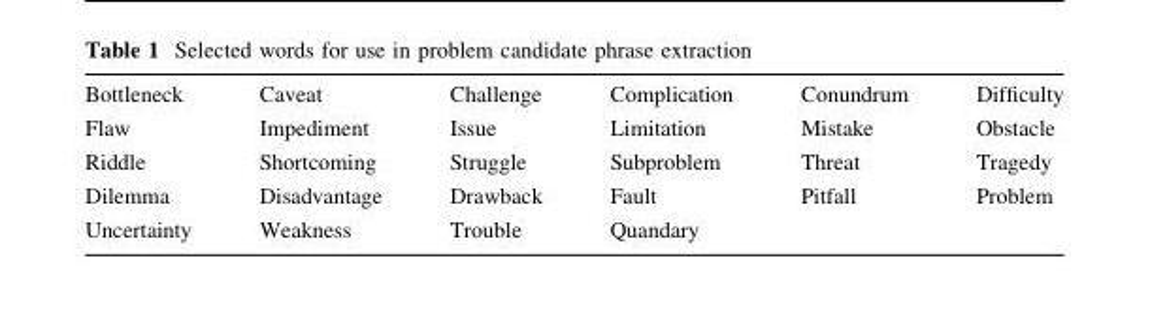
<table><tbody><tr><td>Bottleneck</td><td>Caveat</td><td>Challenge</td><td>Complication</td><td>Conundrum</td><td>Difficulty</td></tr><tr><td>Flaw</td><td>Impediment</td><td>Issue</td><td>Limitation</td><td>Mistake</td><td>Obstacle</td></tr><tr><td>Riddle</td><td>Shortcoming</td><td>Struggle</td><td>Subproblem</td><td>Threat</td><td>Tragedy</td></tr><tr><td>Dilemma</td><td>Disadvantage</td><td>Drawback</td><td>Fault</td><td>Pitfall</td><td>Problem</td></tr><tr><td>Uncertainty</td><td>Weakness</td><td>Trouble</td><td>Quandary</td><td></td><td></td></tr></tbody></table>